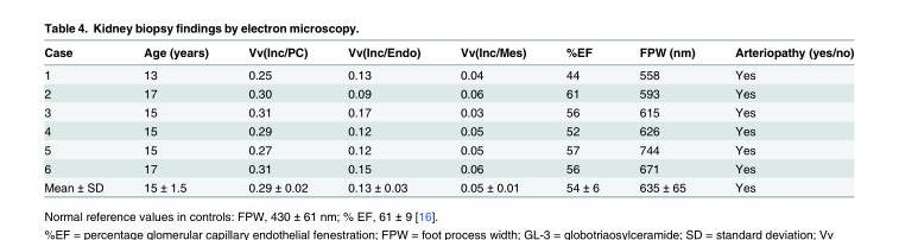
<table><thead><tr><td>Case</td><td>Age (years)</td><td>Vv(Inc/PC)</td><td>Vv(Inc/Endo)</td><td>Vv(Inc/Mes)</td><td>%EF</td><td>FPW (nm)</td><td>Arteriopathy (yes/no)</td></tr></thead><tbody><tr><td>1</td><td>13</td><td>0.25</td><td>0.13</td><td>0.04</td><td>44</td><td>558</td><td>Yes</td></tr><tr><td>2</td><td>17</td><td>0.30</td><td>0.09</td><td>0.06</td><td>61</td><td>593</td><td>Yes</td></tr><tr><td>3</td><td>15</td><td>0.31</td><td>0.17</td><td>0.03</td><td>56</td><td>615</td><td>Yes</td></tr><tr><td>4</td><td>15</td><td>0.29</td><td>0.12</td><td>0.05</td><td>52</td><td>626</td><td>Yes</td></tr><tr><td>5</td><td>15</td><td>0.27</td><td>0.12</td><td>0.05</td><td>57</td><td>744</td><td>Yes</td></tr><tr><td>6</td><td>17</td><td>0.31</td><td>0.15</td><td>0.06</td><td>56</td><td>671</td><td>Yes</td></tr><tr><td>Mean ± SD</td><td>15 ± 1.5</td><td>0.29 ± 0.02</td><td>0.13 ± 0.03</td><td>0.05 ± 0.01</td><td>54 ± 6</td><td>635 ± 65</td><td>Yes</td></tr></tbody></table>